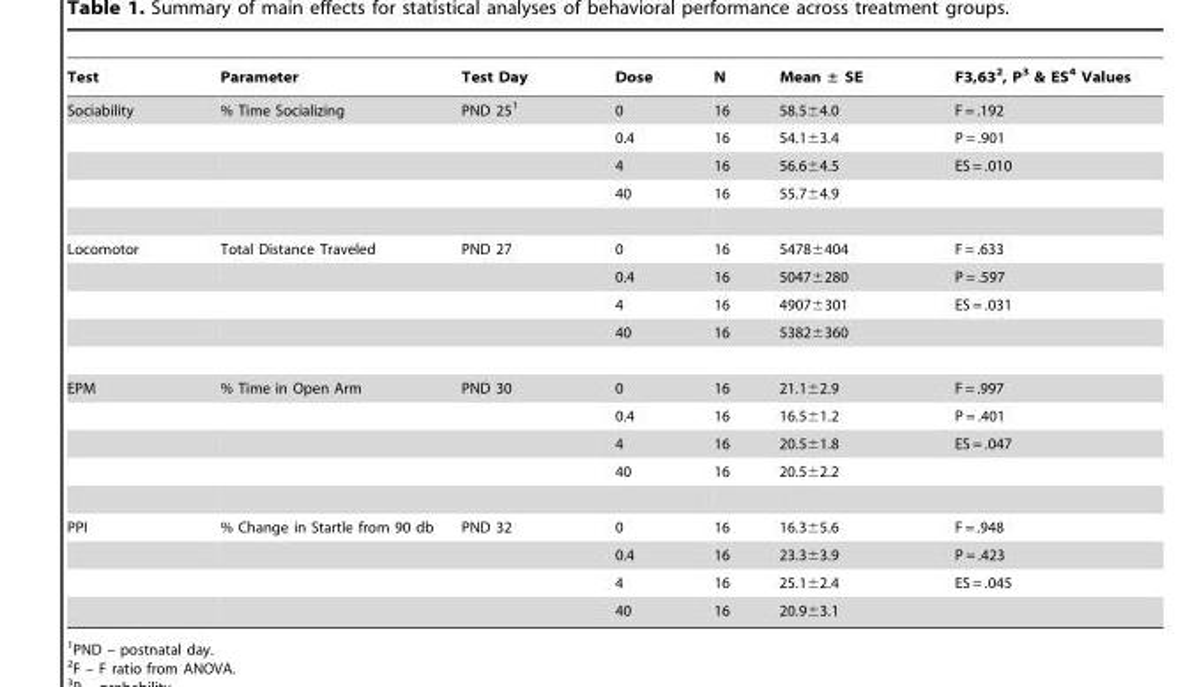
<table><thead><tr><td>Test</td><td>Parameter</td><td>Test Day</td><td>Dose</td><td>N</td><td>Mean ± SE</td><td>F3,63<sup>2</sup>, P<sup>3</sup> &amp; ES<sup>4</sup> Values</td></tr></thead><tbody><tr><td rowspan="4">Sociability</td><td>% Time Socializing</td><td>PND 25<sup>1</sup></td><td>0</td><td>16</td><td>58.5±4.0</td><td>F = .192</td></tr><tr><td></td><td></td><td>0.4</td><td>16</td><td>54.1±3.4</td><td>P = .901</td></tr><tr><td></td><td></td><td>4</td><td>16</td><td>56.6±4.5</td><td>ES = .010</td></tr><tr><td></td><td></td><td>40</td><td>16</td><td>55.7±4.9</td><td></td></tr><tr><td rowspan="4">Locomotor</td><td>Total Distance Traveled</td><td>PND 27</td><td>0</td><td>16</td><td>5478±404</td><td>F = .633</td></tr><tr><td></td><td></td><td>0.4</td><td>16</td><td>5047±280</td><td>P = .597</td></tr><tr><td></td><td></td><td>4</td><td>16</td><td>4907±301</td><td>ES = .031</td></tr><tr><td></td><td></td><td>40</td><td>16</td><td>5382±360</td><td></td></tr><tr><td rowspan="4">EPM</td><td>% Time in Open Arm</td><td>PND 30</td><td>0</td><td>16</td><td>21.1±2.9</td><td>F = .997</td></tr><tr><td></td><td></td><td>0.4</td><td>16</td><td>16.5±1.2</td><td>P = .401</td></tr><tr><td></td><td></td><td>4</td><td>16</td><td>20.5±1.8</td><td>ES = .047</td></tr><tr><td></td><td></td><td>40</td><td>16</td><td>20.5±2.2</td><td></td></tr><tr><td rowspan="4">PPI</td><td>% Change in Startle from 90 db</td><td>PND 32</td><td>0</td><td>16</td><td>16.3±5.6</td><td>F = .948</td></tr><tr><td></td><td></td><td>0.4</td><td>16</td><td>23.3±3.9</td><td>P = .423</td></tr><tr><td></td><td></td><td>4</td><td>16</td><td>25.1±2.4</td><td>ES = .045</td></tr><tr><td></td><td></td><td>40</td><td>16</td><td>20.9±3.1</td><td></td></tr></tbody></table>